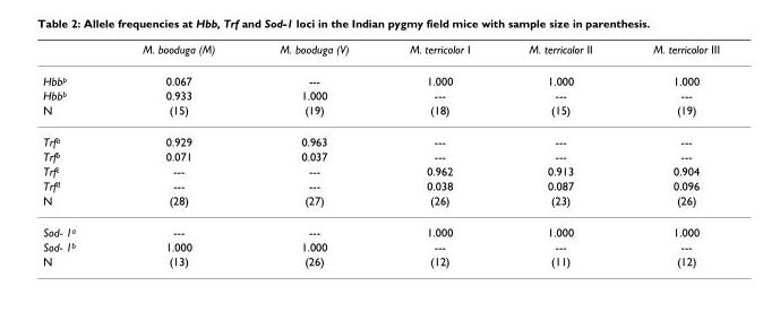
<table><thead><tr><td></td><td>M. booduga (M)</td><td>M. booduga (V)</td><td>M. terricolor I</td><td>M. terricolor II</td><td>M. terricolor III</td></tr></thead><tbody><tr><td>Hbb<sup>p</sup></td><td>0.067</td><td>---</td><td>1.000</td><td>1.000</td><td>1.000</td></tr><tr><td>Hbb<sup>b</sup></td><td>0.933</td><td>1.000</td><td>---</td><td>---</td><td>---</td></tr><tr><td>N</td><td>(15)</td><td>(19)</td><td>(18)</td><td>(15)</td><td>(19)</td></tr><tr><td>Trf<sup>a</sup></td><td>0.929</td><td>0.963</td><td>---</td><td>---</td><td>---</td></tr><tr><td>Trf<sup>b</sup></td><td>0.071</td><td>0.037</td><td>---</td><td>---</td><td>---</td></tr><tr><td>Trf<sup>c</sup></td><td>---</td><td>---</td><td>0.962</td><td>0.913</td><td>0.904</td></tr><tr><td>Trf<sup>d</sup></td><td>---</td><td>---</td><td>0.038</td><td>0.087</td><td>0.096</td></tr><tr><td>N</td><td>(28)</td><td>(27)</td><td>(26)</td><td>(23)</td><td>(26)</td></tr><tr><td>Sod- 1<sup>a</sup></td><td>---</td><td>---</td><td>1.000</td><td>1.000</td><td>1.000</td></tr><tr><td>Sod- 1<sup>b</sup></td><td>1.000</td><td>1.000</td><td>---</td><td>---</td><td>---</td></tr><tr><td>N</td><td>(13)</td><td>(26)</td><td>(12)</td><td>(11)</td><td>(12)</td></tr></tbody></table>